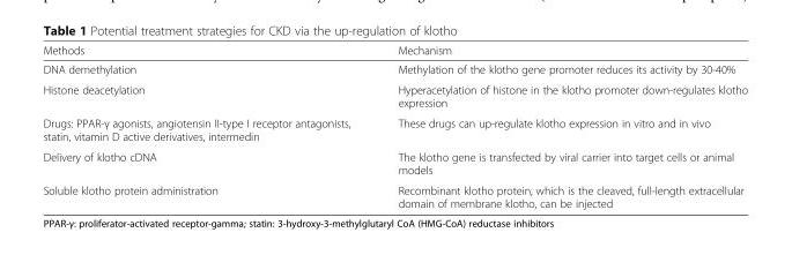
<table><thead><tr><td>Methods</td><td>Mechanism</td></tr></thead><tbody><tr><td>DNA demethylation</td><td>Methylation of the klotho gene promoter reduces its activity by 30-40%</td></tr><tr><td>Histone deacetylation</td><td>Hyperacetylation of histone in the klotho promoter down-regulates klotho expression</td></tr><tr><td>Drugs: PPAR-γ agonists, angiotensin II-type I receptor antagonists, statin, vitamin D active derivatives, intermedin</td><td>These drugs can up-regulate klotho expression in vitro and in vivo</td></tr><tr><td>Delivery of klotho cDNA</td><td>The klotho gene is transfected by viral carrier into target cells or animal models</td></tr><tr><td>Soluble klotho protein administration</td><td>Recombinant klotho protein, which is the cleaved, full-length extracellular domain of membrane klotho, can be injected</td></tr></tbody></table>